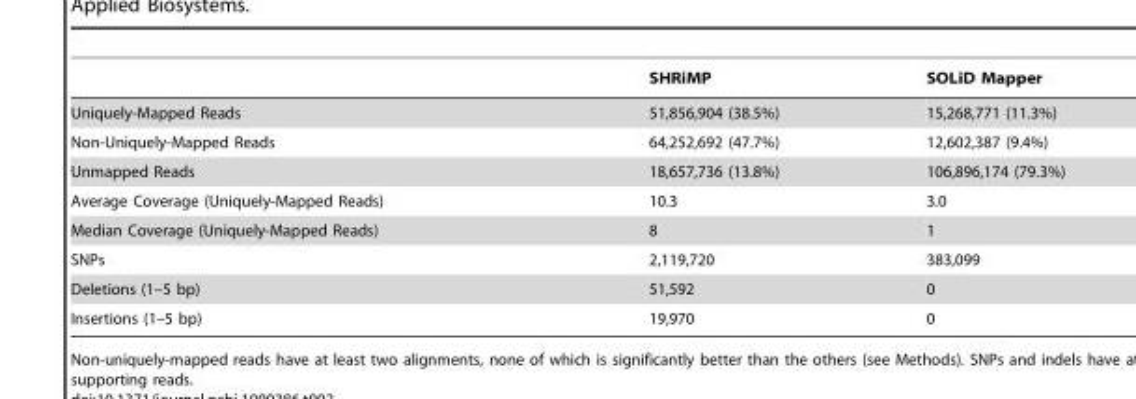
<table><thead><tr><td></td><td>SHRiMP</td><td>SOLiD Mapper</td></tr></thead><tbody><tr><td>Uniquely-Mapped Reads</td><td>51,856,904 (38.5%)</td><td>15,268,771 (11.3%)</td></tr><tr><td>Non-Uniquely-Mapped Reads</td><td>64,252,692 (47.7%)</td><td>12,602,387 (9.4%)</td></tr><tr><td>Unmapped Reads</td><td>18,657,736 (13.8%)</td><td>106,896,174 (79.3%)</td></tr><tr><td>Average Coverage (Uniquely-Mapped Reads)</td><td>10.3</td><td>3.0</td></tr><tr><td>Median Coverage (Uniquely-Mapped Reads)</td><td>8</td><td>1</td></tr><tr><td>SNPs</td><td>2,119,720</td><td>383,099</td></tr><tr><td>Deletions (1–5 bp)</td><td>51,592</td><td>0</td></tr><tr><td>Insertions (1–5 bp)</td><td>19,970</td><td>0</td></tr></tbody></table>